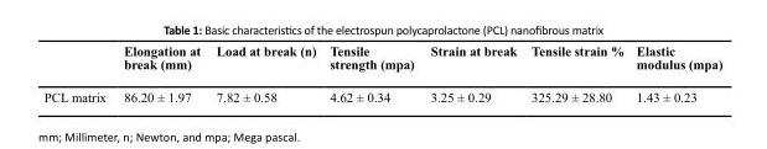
<table><thead><tr><td></td><td>Elongation at break (mm)</td><td>Load at break (n)</td><td>Tensile strength (mpa)</td><td>Strain at break</td><td>Tensile strain %</td><td>Elastic modulus (mpa)</td></tr></thead><tbody><tr><td>PCL matrix</td><td>86.20 ± 1.97</td><td>7.82 ± 0.58</td><td>4.62 ± 0.34</td><td>3.25 ± 0.29</td><td>325.29 ± 28.80</td><td>1.43 ± 0.23</td></tr></tbody></table>